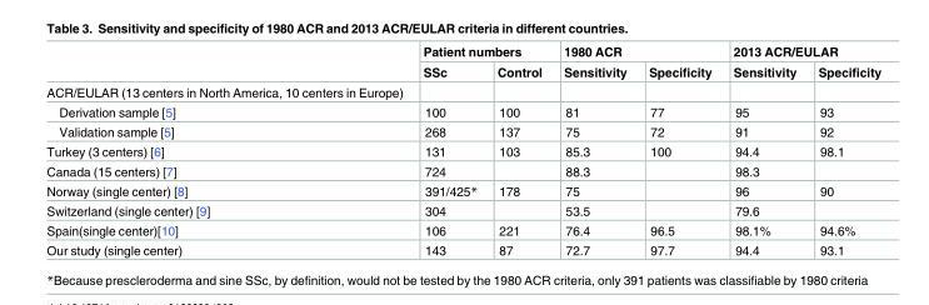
<table><thead><tr><td rowspan="2"></td><td colspan="2">Patient numbers</td><td colspan="2">1980 ACR</td><td colspan="2">2013 ACR/EULAR</td></tr><tr><td>SSc</td><td>Control</td><td>Sensitivity</td><td>Specificity</td><td>Sensitivity</td><td>Specificity</td></tr></thead><tbody><tr><td colspan="7">ACR/EULAR (13 centers in North America, 10 centers in Europe)</td></tr><tr><td>Derivation sample [5]</td><td>100</td><td>100</td><td>81</td><td>77</td><td>95</td><td>93</td></tr><tr><td>Validation sample [5]</td><td>268</td><td>137</td><td>75</td><td>72</td><td>91</td><td>92</td></tr><tr><td>Turkey (3 centers) [6]</td><td>131</td><td>103</td><td>85.3</td><td>100</td><td>94.4</td><td>98.1</td></tr><tr><td>Canada (15 centers) [7]</td><td>724</td><td></td><td>88.3</td><td></td><td>98.3</td><td></td></tr><tr><td>Norway (single center) [8]</td><td>391/425*</td><td>178</td><td>75</td><td></td><td>96</td><td>90</td></tr><tr><td>Switzerland (single center) [9]</td><td>304</td><td></td><td>53.5</td><td></td><td>79.6</td><td></td></tr><tr><td>Spain(single center)[10]</td><td>106</td><td>221</td><td>76.4</td><td>96.5</td><td>98.1%</td><td>94.6%</td></tr><tr><td>Our study (single center)</td><td>143</td><td>87</td><td>72.7</td><td>97.7</td><td>94.4</td><td>93.1</td></tr></tbody></table>